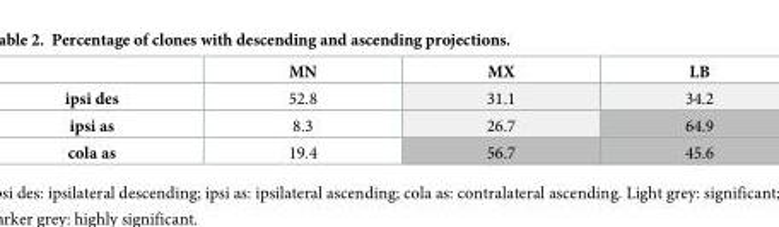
<table><thead><tr><td></td><td>MN</td><td>MX</td><td>LB</td></tr></thead><tbody><tr><td>ipsi des</td><td>52.8</td><td>31.1</td><td>34.2</td></tr><tr><td>ipsi as</td><td>8.3</td><td>26.7</td><td>64.9</td></tr><tr><td>cola as</td><td>19.4</td><td>56.7</td><td>45.6</td></tr></tbody></table>